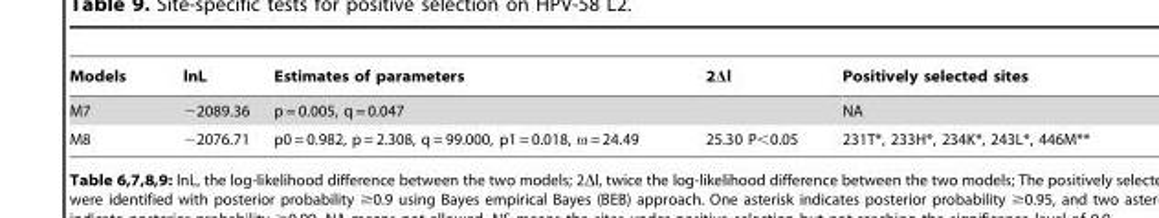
<table><thead><tr><td>Models</td><td>lnL</td><td>Estimates of parameters</td><td>2Δl</td><td>Positively selected sites</td></tr></thead><tbody><tr><td>M7</td><td>−2089.36</td><td>p = 0.005, q = 0.047</td><td></td><td>NA</td></tr><tr><td>M8</td><td>−2076.71</td><td>p0 = 0.982, p = 2.308, q = 99.000, p1 = 0.018, ω = 24.49</td><td>25.30 P&lt;0.05</td><td>231T*, 233H*, 234K*, 243L*, 446M**</td></tr></tbody></table>